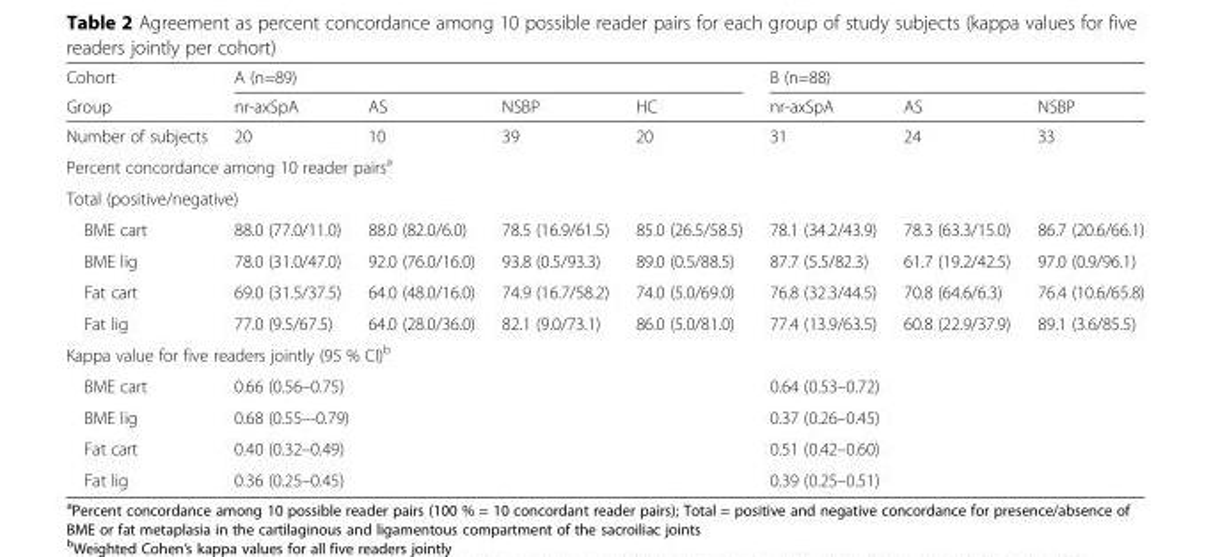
<table><thead><tr><td rowspan="2">Cohort Group</td><td colspan="4">A (n=89)</td><td colspan="3">B (n=88)</td></tr><tr><td>nr-axSpA</td><td>AS</td><td>NSBP</td><td>HC</td><td>nr-axSpA</td><td>AS</td><td>NSBP</td></tr></thead><tbody><tr><td>Number of subjects</td><td>20</td><td>10</td><td>39</td><td>20</td><td>31</td><td>24</td><td>33</td></tr><tr><td colspan="8">Percent concordance among 10 reader pairs<sup>a</sup></td></tr><tr><td colspan="8">Total (positive/negative)</td></tr><tr><td>BME cart</td><td>88.0 (77.0/11.0)</td><td>88.0 (82.0/6.0)</td><td>78.5 (16.9/61.5)</td><td>85.0 (26.5/58.5)</td><td>78.1 (34.2/43.9)</td><td>78.3 (63.3/15.0)</td><td>86.7 (20.6/66.1)</td></tr><tr><td>BME lig</td><td>78.0 (31.0/47.0)</td><td>92.0 (76.0/16.0)</td><td>93.8 (0.5/93.3)</td><td>89.0 (0.5/88.5)</td><td>87.7 (5.5/82.3)</td><td>61.7 (19.2/42.5)</td><td>97.0 (0.9/96.1)</td></tr><tr><td>Fat cart</td><td>69.0 (31.5/37.5)</td><td>64.0 (48.0/16.0)</td><td>74.9 (16.7/58.2)</td><td>74.0 (5.0/69.0)</td><td>76.8 (32.3/44.5)</td><td>70.8 (64.6/6.3)</td><td>76.4 (10.6/65.8)</td></tr><tr><td>Fat lig</td><td>77.0 (9.5/67.5)</td><td>64.0 (28.0/36.0)</td><td>82.1 (9.0/73.1)</td><td>86.0 (5.0/81.0)</td><td>77.4 (13.9/63.5)</td><td>60.8 (22.9/37.9)</td><td>89.1 (3.6/85.5)</td></tr><tr><td colspan="8">Kappa value for five readers jointly (95 % CI)<sup>b</sup></td></tr><tr><td>BME cart</td><td colspan="4">0.66 (0.56–0.75)</td><td colspan="3">0.64 (0.53–0.72)</td></tr><tr><td>BME lig</td><td colspan="4">0.68 (0.55–-0.79)</td><td colspan="3">0.37 (0.26–0.45)</td></tr><tr><td>Fat cart</td><td colspan="4">0.40 (0.32–0.49)</td><td colspan="3">0.51 (0.42–0.60)</td></tr><tr><td>Fat lig</td><td colspan="4">0.36 (0.25–0.45)</td><td colspan="3">0.39 (0.25–0.51)</td></tr></tbody></table>